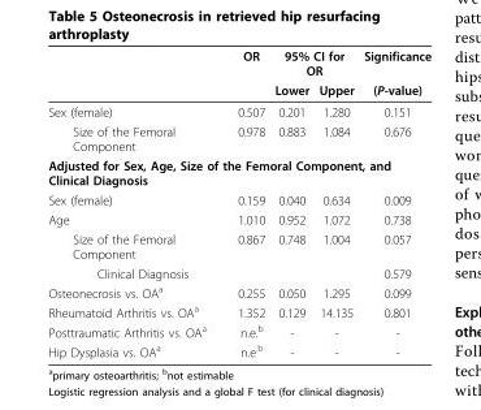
<table><thead><tr><td rowspan="2"></td><td rowspan="2">OR</td><td colspan="2">95% CI for OR</td><td rowspan="2">Significance (P-value)</td></tr><tr><td>Lower</td><td>Upper</td></tr></thead><tbody><tr><td>Sex (female)</td><td>0.507</td><td>0.201</td><td>1.280</td><td>0.151</td></tr><tr><td>Size of the Femoral Component</td><td>0.978</td><td>0.883</td><td>1.084</td><td>0.676</td></tr><tr><td colspan="5">Adjusted for Sex, Age, Size of the Femoral Component, and Clinical Diagnosis</td></tr><tr><td>Sex (female)</td><td>0.159</td><td>0.040</td><td>0.634</td><td>0.009</td></tr><tr><td>Age</td><td>1.010</td><td>0.952</td><td>1.072</td><td>0.738</td></tr><tr><td>Size of the Femoral Component</td><td>0.867</td><td>0.748</td><td>1.004</td><td>0.057</td></tr><tr><td>Clinical Diagnosis</td><td></td><td></td><td></td><td>0.579</td></tr><tr><td>Osteonecrosis vs. OA<sup>a</sup></td><td>0.255</td><td>0.050</td><td>1.295</td><td>0.099</td></tr><tr><td>Rheumatoid Arthritis vs. OA<sup>a</sup></td><td>1.352</td><td>0.129</td><td>14.135</td><td>0.801</td></tr><tr><td>Posttraumatic Arthritis vs. OA<sup>a</sup></td><td>n.e.<sup>b</sup></td><td>-</td><td>-</td><td>-</td></tr><tr><td>Hip Dysplasia vs. OA<sup>a</sup></td><td>n.e<sup>.b</sup></td><td>-</td><td>-</td><td>-</td></tr></tbody></table>